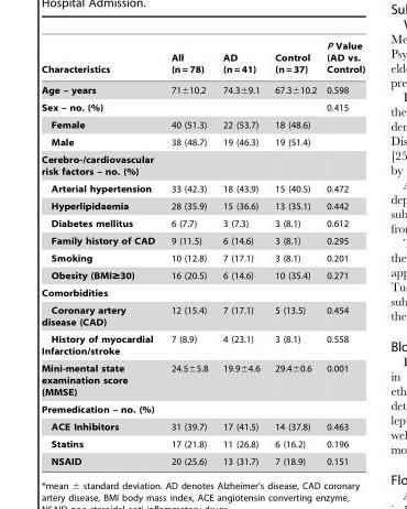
<table><thead><tr><td>Characteristics</td><td>All (n = 78)</td><td>AD (n = 41)</td><td>Control (n = 37)</td><td>P Value (AD vs. Control)</td></tr></thead><tbody><tr><td>Age – years</td><td>71±10.2</td><td>74.3±9.1</td><td>67.3±10.2</td><td>0.598</td></tr><tr><td>Sex – no. (%)</td><td></td><td></td><td></td><td>0.415</td></tr><tr><td>Female</td><td>40 (51.3)</td><td>22 (53.7)</td><td>18 (48.6)</td><td></td></tr><tr><td>Male</td><td>38 (48.7)</td><td>19 (46.3)</td><td>19 (51.4)</td><td></td></tr><tr><td colspan="5">Cerebro-/cardiovascular risk factors – no. (%)</td></tr><tr><td>Arterial hypertension</td><td>33 (42.3)</td><td>18 (43.9)</td><td>15 (40.5)</td><td>0.472</td></tr><tr><td>Hyperlipidaemia</td><td>28 (35.9)</td><td>15 (36.6)</td><td>13 (35.1)</td><td>0.442</td></tr><tr><td>Diabetes mellitus</td><td>6 (7.7)</td><td>3 (7.3)</td><td>3 (8.1)</td><td>0.612</td></tr><tr><td>Family history of CAD</td><td>9 (11.5)</td><td>6 (14.6)</td><td>3 (8.1)</td><td>0.295</td></tr><tr><td>Smoking</td><td>10 (12.8)</td><td>7 (17.1)</td><td>3 (8.1)</td><td>0.201</td></tr><tr><td>Obesity (BMI≥30)</td><td>16 (20.5)</td><td>6 (14.6)</td><td>10 (35.4)</td><td>0.271</td></tr><tr><td colspan="5">Comorbidities</td></tr><tr><td>Coronary artery disease (CAD)</td><td>12 (15.4)</td><td>7 (17.1)</td><td>5 (13.5)</td><td>0.454</td></tr><tr><td>History of myocardial Infarction/stroke</td><td>7 (8.9)</td><td>4 (23.1)</td><td>3 (8.1)</td><td>0.558</td></tr><tr><td>Mini-mental state examination score (MMSE)</td><td>24.5±5.8</td><td>19.9±4.6</td><td>29.4±0.6</td><td>0.001</td></tr><tr><td colspan="5">Premedication – no. (%)</td></tr><tr><td>ACE Inhibitors</td><td>31 (39.7)</td><td>17 (41.5)</td><td>14 (37.8)</td><td>0.463</td></tr><tr><td>Statins</td><td>17 (21.8)</td><td>11 (26.8)</td><td>6 (16.2)</td><td>0.196</td></tr><tr><td>NSAID</td><td>20 (25.6)</td><td>13 (31.7)</td><td>7 (18.9)</td><td>0.151</td></tr></tbody></table>